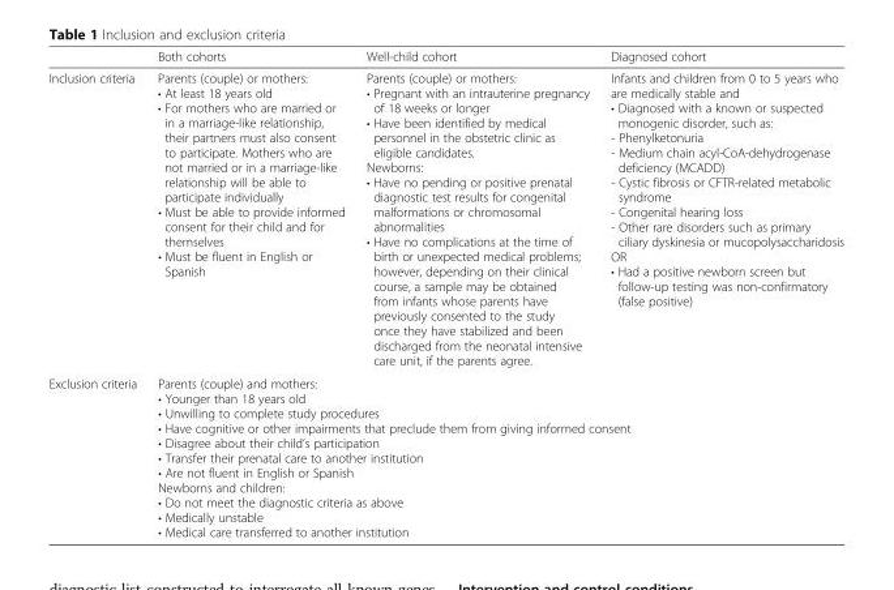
<table><thead><tr><td></td><td>Both cohorts</td><td>Well-child cohort</td><td>Diagnosed cohort</td></tr></thead><tbody><tr><td>Inclusion criteria</td><td>Parents (couple) or mothers: • At least 18 years old • For mothers who are married or in a marriage-like relationship, their partners must also consent to participate. Mothers who are not married or in a marriage-like relationship will be able to participate individually • Must be able to provide informed consent for their child and for themselves • Must be fluent in English or Spanish</td><td>Parents (couple) or mothers: • Pregnant with an intrauterine pregnancy of 18 weeks or longer • Have been identified by medical personnel in the obstetric clinic as eligible candidates. Newborns: • Have no pending or positive prenatal diagnostic test results for congenital malformations or chromosomal abnormalities • Have no complications at the time of birth or unexpected medical problems; however, depending on their clinical course, a sample may be obtained from infants whose parents have previously consented to the study once they have stabilized and been discharged from the neonatal intensive care unit, if the parents agree.</td><td>Infants and children from 0 to 5 years who are medically stable and • Diagnosed with a known or suspected monogenic disorder, such as: - Phenylketonuria - Medium chain acyl-CoA-dehydrogenase deficiency (MCADD) - Cystic fibrosis or CFTR-related metabolic syndrome - Congenital hearing loss - Other rare disorders such as primary ciliary dyskinesia or mucopolysaccharidosis OR • Had a positive newborn screen but follow-up testing was non-confirmatory (false positive)</td></tr><tr><td>Exclusion criteria</td><td colspan="3">Parents (couple) and mothers: • Younger than 18 years old • Unwilling to complete study procedures • Have cognitive or other impairments that preclude them from giving informed consent • Disagree about their child’s participation • Transfer their prenatal care to another institution • Are not fluent in English or Spanish Newborns and children: • Do not meet the diagnostic criteria as above • Medically unstable • Medical care transferred to another institution</td></tr></tbody></table>